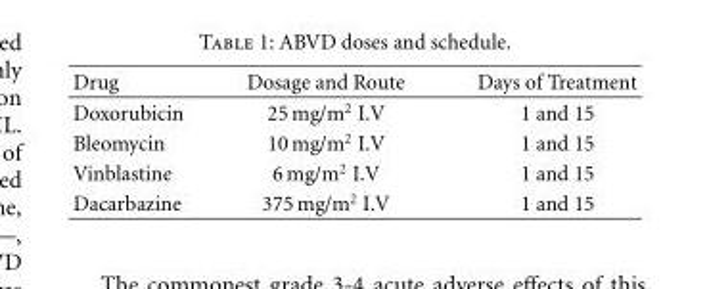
<table><thead><tr><td>Drug</td><td>Dosage and Route</td><td>Days of Treatment</td></tr></thead><tbody><tr><td>Doxorubicin</td><td>25 mg/m<sup>2</sup> I.V</td><td>1 and 15</td></tr><tr><td>Bleomycin</td><td>10 mg/m<sup>2</sup> I.V</td><td>1 and 15</td></tr><tr><td>Vinblastine</td><td>6 mg/m<sup>2</sup> I.V</td><td>1 and 15</td></tr><tr><td>Dacarbazine</td><td>375 mg/m<sup>2</sup> I.V</td><td>1 and 15</td></tr></tbody></table>